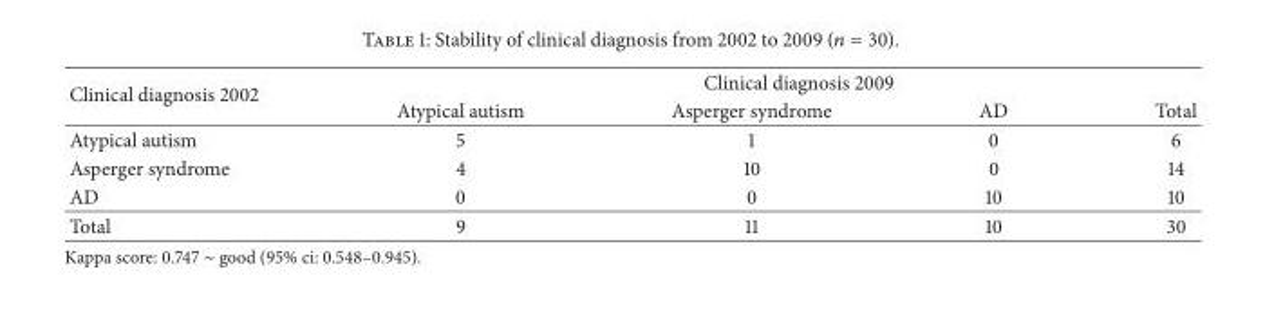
<table><thead><tr><td rowspan="2">Clinical diagnosis 2002</td><td colspan="4">Clinical diagnosis 2009</td></tr><tr><td>Atypical autism</td><td>Asperger syndrome</td><td>AD</td><td>Total</td></tr></thead><tbody><tr><td>Atypical autism</td><td>5</td><td>1</td><td>0</td><td>6</td></tr><tr><td>Asperger syndrome</td><td>4</td><td>10</td><td>0</td><td>14</td></tr><tr><td>AD</td><td>0</td><td>0</td><td>10</td><td>10</td></tr><tr><td>Total</td><td>9</td><td>11</td><td>10</td><td>30</td></tr></tbody></table>